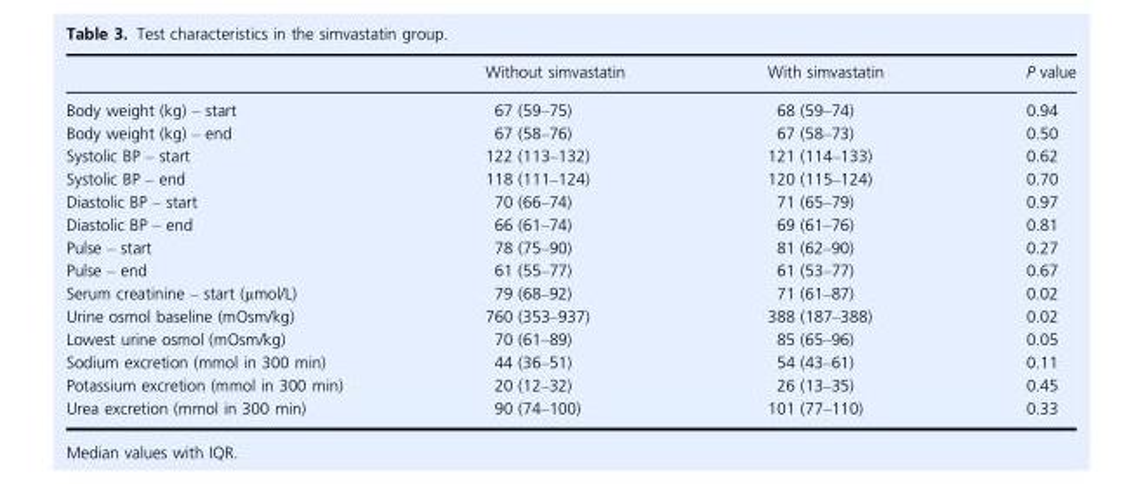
<table><thead><tr><td></td><td>Without simvastatin</td><td>With simvastatin</td><td>P value</td></tr></thead><tbody><tr><td>Body weight (kg) – start</td><td>67 (59–75)</td><td>68 (59–74)</td><td>0.94</td></tr><tr><td>Body weight (kg) – end</td><td>67 (58–76)</td><td>67 (58–73)</td><td>0.50</td></tr><tr><td>Systolic BP – start</td><td>122 (113–132)</td><td>121 (114–133)</td><td>0.62</td></tr><tr><td>Systolic BP – end</td><td>118 (111–124)</td><td>120 (115–124)</td><td>0.70</td></tr><tr><td>Diastolic BP – start</td><td>70 (66–74)</td><td>71 (65–79)</td><td>0.97</td></tr><tr><td>Diastolic BP – end</td><td>66 (61–74)</td><td>69 (61–76)</td><td>0.81</td></tr><tr><td>Pulse – start</td><td>78 (75–90)</td><td>81 (62–90)</td><td>0.27</td></tr><tr><td>Pulse – end</td><td>61 (55–77)</td><td>61 (53–77)</td><td>0.67</td></tr><tr><td>Serum creatinine – start (μmol/L)</td><td>79 (68–92)</td><td>71 (61–87)</td><td>0.02</td></tr><tr><td>Urine osmol baseline (mOsm/kg)</td><td>760 (353–937)</td><td>388 (187–388)</td><td>0.02</td></tr><tr><td>Lowest urine osmol (mOsm/kg)</td><td>70 (61–89)</td><td>85 (65–96)</td><td>0.05</td></tr><tr><td>Sodium excretion (mmol in 300 min)</td><td>44 (36–51)</td><td>54 (43–61)</td><td>0.11</td></tr><tr><td>Potassium excretion (mmol in 300 min)</td><td>20 (12–32)</td><td>26 (13–35)</td><td>0.45</td></tr><tr><td>Urea excretion (mmol in 300 min)</td><td>90 (74–100)</td><td>101 (77–110)</td><td>0.33</td></tr></tbody></table>